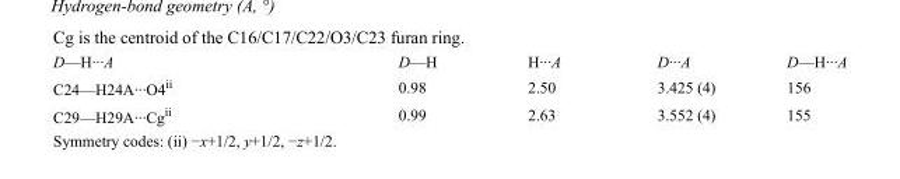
<table><tbody><tr><td>D—H···A</td><td>D—H</td><td>H···A</td><td>D···A</td><td>D—H···A</td></tr><tr><td>C24—H24A···O4<sup>ii</sup></td><td>0.98</td><td>2.50</td><td>3.425 (4)</td><td>156</td></tr><tr><td>C29—H29A···Cg<sup>ii</sup></td><td>0.99</td><td>2.63</td><td>3.552 (4)</td><td>155</td></tr></tbody></table>